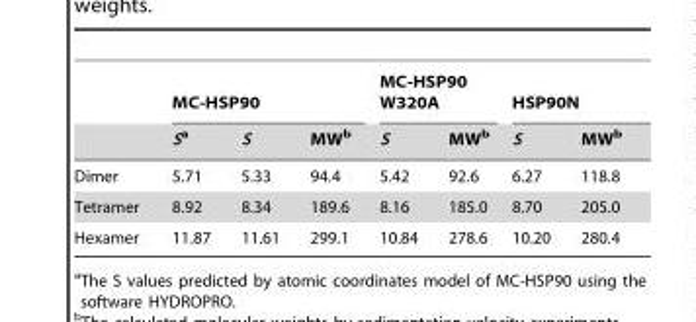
<table><thead><tr><td rowspan="2"></td><td colspan="3">MC-HSP90</td><td colspan="2">MC-HSP90 W320A</td><td colspan="2">HSP90N</td></tr><tr><td>Sa</td><td>S</td><td>MW<sup>b</sup></td><td>S</td><td>MW<sup>b</sup></td><td>S</td><td>MW<sup>b</sup></td></tr></thead><tbody><tr><td>Dimer</td><td>5.71</td><td>5.33</td><td>94.4</td><td>5.42</td><td>92.6</td><td>6.27</td><td>118.8</td></tr><tr><td>Tetramer</td><td>8.92</td><td>8.34</td><td>189.6</td><td>8.16</td><td>185.0</td><td>8.70</td><td>205.0</td></tr><tr><td>Hexamer</td><td>11.87</td><td>11.61</td><td>299.1</td><td>10.84</td><td>278.6</td><td>10.20</td><td>280.4</td></tr></tbody></table>